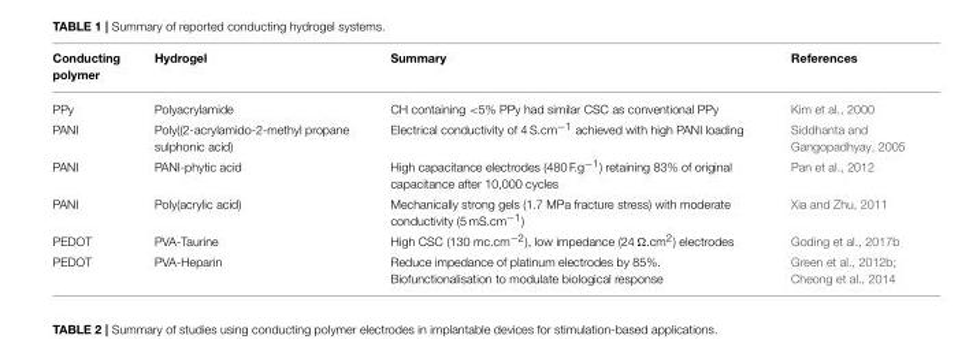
<table><thead><tr><td>Conducting polymer</td><td>Hydrogel</td><td>Summary</td><td>References</td></tr></thead><tbody><tr><td>PPy</td><td>Polyacrylamide</td><td>CH containing &lt;5% PPy had similar CSC as conventional PPy</td><td>Kim et al., 2000</td></tr><tr><td>PANI</td><td>Poly((2-acrylamido-2-methyl propane sulphonic acid)</td><td>Electrical conductivity of 4 S.cm<sup>−1</sup> achieved with high PANI loading</td><td>Siddhanta and Gangopadhyay, 2005</td></tr><tr><td>PANI</td><td>PANI-phytic acid</td><td>High capacitance electrodes (480 F.g<sup>−1</sup>) retaining 83% of original capacitance after 10,000 cycles</td><td>Pan et al., 2012</td></tr><tr><td>PANI</td><td>Poly(acrylic acid)</td><td>Mechanically strong gels (1.7 MPa fracture stress) with moderate conductivity (5 mS.cm<sup>−1</sup>)</td><td>Xia and Zhu, 2011</td></tr><tr><td>PEDOT</td><td>PVA-Taurine</td><td>High CSC (130 mc.cm<sup>−2</sup>), low impedance (24 Ω.cm<sup>2</sup>) electrodes</td><td>Goding et al., 2017b</td></tr><tr><td>PEDOT</td><td>PVA-Heparin</td><td>Reduce impedance of platinum electrodes by 85%. Biofunctionalisation to modulate biological response</td><td>Green et al., 2012b; Cheong et al., 2014</td></tr></tbody></table>